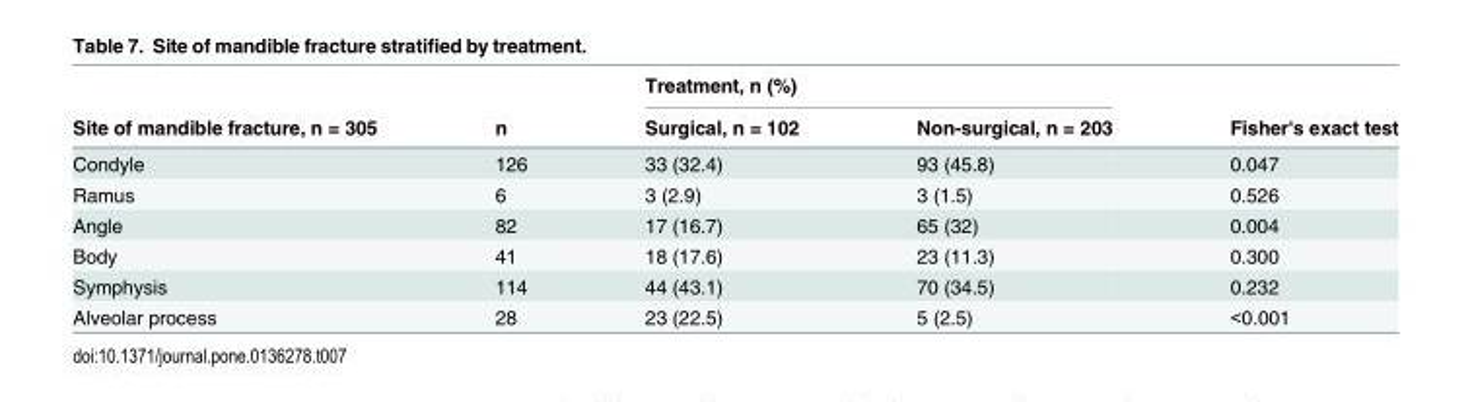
<table><thead><tr><td rowspan="2">Site of mandible fracture, n = 305</td><td rowspan="2">n</td><td colspan="2">Treatment, n (%)</td><td rowspan="2">Fisher&#x27;s exact test</td></tr><tr><td>Surgical, n = 102</td><td>Non-surgical, n = 203</td></tr></thead><tbody><tr><td>Condyle</td><td>126</td><td>33 (32.4)</td><td>93 (45.8)</td><td>0.047</td></tr><tr><td>Ramus</td><td>6</td><td>3 (2.9)</td><td>3 (1.5)</td><td>0.526</td></tr><tr><td>Angle</td><td>82</td><td>17 (16.7)</td><td>65 (32)</td><td>0.004</td></tr><tr><td>Body</td><td>41</td><td>18 (17.6)</td><td>23 (11.3)</td><td>0.300</td></tr><tr><td>Symphysis</td><td>114</td><td>44 (43.1)</td><td>70 (34.5)</td><td>0.232</td></tr><tr><td>Alveolar process</td><td>28</td><td>23 (22.5)</td><td>5 (2.5)</td><td>&lt;0.001</td></tr></tbody></table>